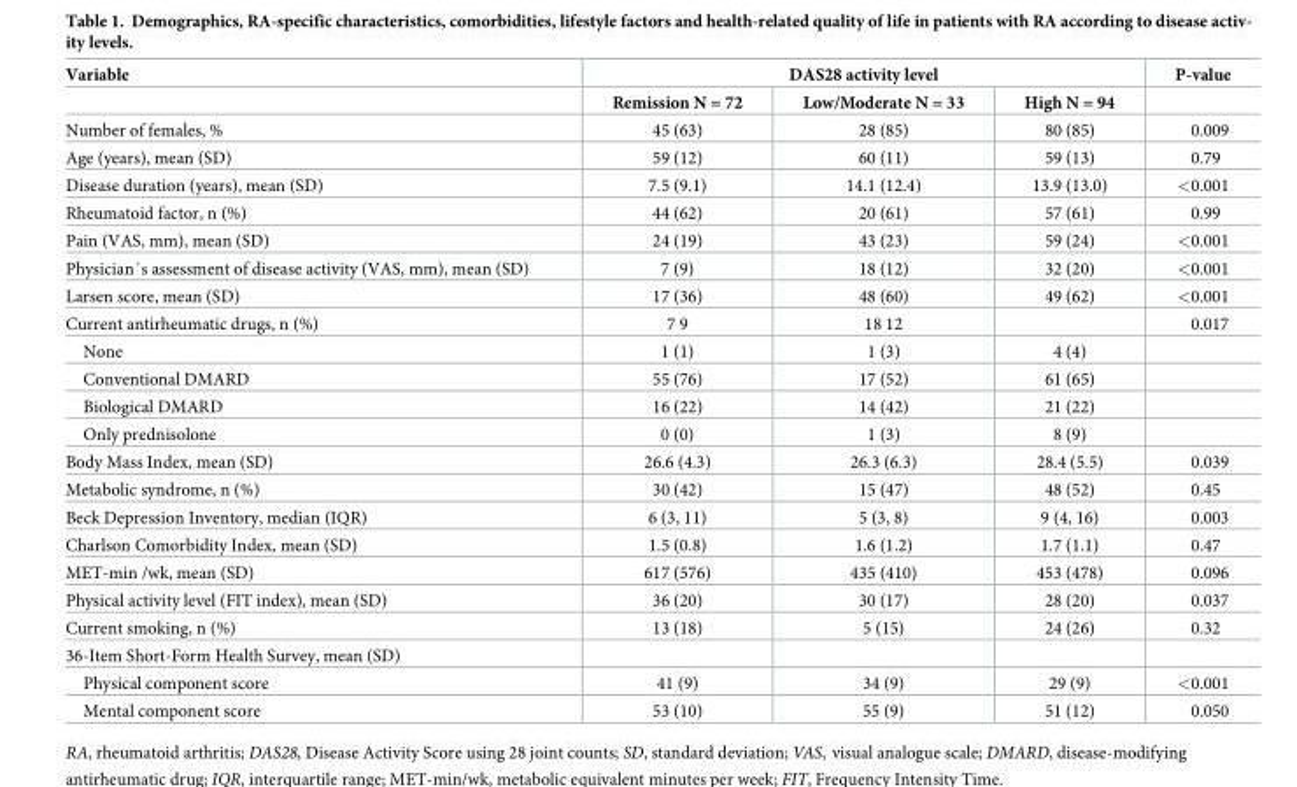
<table><thead><tr><td rowspan="2">Variable</td><td colspan="3">DAS28 activity level</td><td rowspan="2">P-value</td></tr><tr><td>Remission N = 72</td><td>Low/Moderate N = 33</td><td>High N = 94</td></tr></thead><tbody><tr><td>Number of females, %</td><td>45 (63)</td><td>28 (85)</td><td>80 (85)</td><td>0.009</td></tr><tr><td>Age (years), mean (SD)</td><td>59 (12)</td><td>60 (11)</td><td>59 (13)</td><td>0.79</td></tr><tr><td>Disease duration (years), mean (SD)</td><td>7.5 (9.1)</td><td>14.1 (12.4)</td><td>13.9 (13.0)</td><td>&lt;0.001</td></tr><tr><td>Rheumatoid factor, n (%)</td><td>44 (62)</td><td>20 (61)</td><td>57 (61)</td><td>0.99</td></tr><tr><td>Pain (VAS, mm), mean (SD)</td><td>24 (19)</td><td>43 (23)</td><td>59 (24)</td><td>&lt;0.001</td></tr><tr><td>Physician´s assessment of disease activity (VAS, mm), mean (SD)</td><td>7 (9)</td><td>18 (12)</td><td>32 (20)</td><td>&lt;0.001</td></tr><tr><td>Larsen score, mean (SD)</td><td>17 (36)</td><td>48 (60)</td><td>49 (62)</td><td>&lt;0.001</td></tr><tr><td>Current antirheumatic drugs, n (%)</td><td>7 9</td><td>18 12</td><td></td><td>0.017</td></tr><tr><td>None</td><td>1 (1)</td><td>1 (3)</td><td>4 (4)</td><td></td></tr><tr><td>Conventional DMARD</td><td>55 (76)</td><td>17 (52)</td><td>61 (65)</td><td></td></tr><tr><td>Biological DMARD</td><td>16 (22)</td><td>14 (42)</td><td>21 (22)</td><td></td></tr><tr><td>Only prednisolone</td><td>0 (0)</td><td>1 (3)</td><td>8 (9)</td><td></td></tr><tr><td>Body Mass Index, mean (SD)</td><td>26.6 (4.3)</td><td>26.3 (6.3)</td><td>28.4 (5.5)</td><td>0.039</td></tr><tr><td>Metabolic syndrome, n (%)</td><td>30 (42)</td><td>15 (47)</td><td>48 (52)</td><td>0.45</td></tr><tr><td>Beck Depression Inventory, median (IQR)</td><td>6 (3, 11)</td><td>5 (3, 8)</td><td>9 (4, 16)</td><td>0.003</td></tr><tr><td>Charlson Comorbidity Index, mean (SD)</td><td>1.5 (0.8)</td><td>1.6 (1.2)</td><td>1.7 (1.1)</td><td>0.47</td></tr><tr><td>MET-min /wk, mean (SD)</td><td>617 (576)</td><td>435 (410)</td><td>453 (478)</td><td>0.096</td></tr><tr><td>Physical activity level (FIT index), mean (SD)</td><td>36 (20)</td><td>30 (17)</td><td>28 (20)</td><td>0.037</td></tr><tr><td>Current smoking, n (%)</td><td>13 (18)</td><td>5 (15)</td><td>24 (26)</td><td>0.32</td></tr><tr><td colspan="5">36-Item Short-Form Health Survey, mean (SD)</td></tr><tr><td>Physical component score</td><td>41 (9)</td><td>34 (9)</td><td>29 (9)</td><td>&lt;0.001</td></tr><tr><td>Mental component score</td><td>53 (10)</td><td>55 (9)</td><td>51 (12)</td><td>0.050</td></tr></tbody></table>